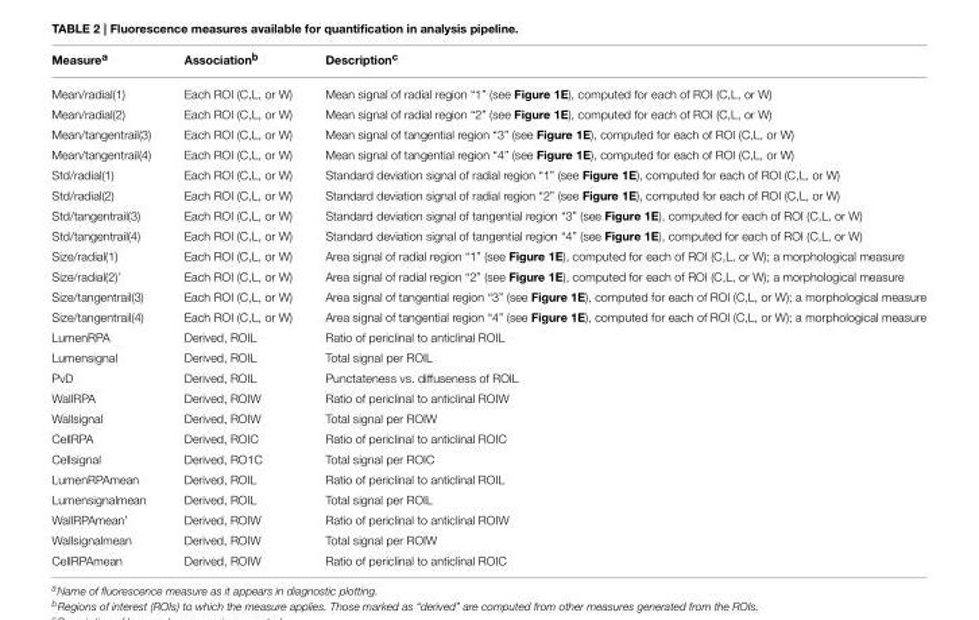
<table><thead><tr><td>Measure<sup>a</sup></td><td>Association<sup>b</sup></td><td>Description<sup>c</sup></td></tr></thead><tbody><tr><td>Mean/radial(1)</td><td>Each ROI (C,L, or W)</td><td>Mean signal of radial region “1” (see Figure 1E), computed for each of ROI (C,L, or W)</td></tr><tr><td>Mean/radial(2)</td><td>Each ROI (C,L, or W)</td><td>Mean signal of radial region “2” (see Figure 1E), computed for each of ROI (C,L, or W)</td></tr><tr><td>Mean/tangentrail(3)</td><td>Each ROI (C,L, or W)</td><td>Mean signal of tangential region “3” (see Figure 1E), computed for each of ROI (C,L, or W)</td></tr><tr><td>Mean/tangentrail(4)</td><td>Each ROI (C,L, or W)</td><td>Mean signal of tangential region “4” (see Figure 1E), computed for each of ROI (C,L, or W)</td></tr><tr><td>Std/radial(1)</td><td>Each ROI (C,L, or W)</td><td>Standard deviation signal of radial region “1” (see Figure 1E), computed for each of ROI (C,L, or W)</td></tr><tr><td>Std/radial(2)</td><td>Each ROI (C,L, or W)</td><td>Standard deviation signal of radial region “2” (see Figure 1E), computed for each of ROI (C,L, or W)</td></tr><tr><td>Std/tangentrail(3)</td><td>Each ROI (C,L, or W)</td><td>Standard deviation signal of tangential region “3” (see Figure 1E), computed for each of ROI (C,L, or W)</td></tr><tr><td>Std/tangentrail(4)</td><td>Each ROI (C,L, or W)</td><td>Standard deviation signal of tangential region “4” (see Figure 1E), computed for each of ROI (C,L, or W)</td></tr><tr><td>Size/radial(1)</td><td>Each ROI (C,L, or W)</td><td>Area signal of radial region “1” (see Figure 1E), computed for each of ROI (C,L, or W); a morphological measure</td></tr><tr><td>Size/radial(2)’</td><td>Each ROI (C,L, or W)</td><td>Area signal of radial region “2” (see Figure 1E), computed for each of ROI (C,L, or W); a morphological measure</td></tr><tr><td>Size/tangentrail(3)</td><td>Each ROI (C,L, or W)</td><td>Area signal of tangential region “3” (see Figure 1E), computed for each of ROI (C,L, or W); a morphological measure</td></tr><tr><td>Size/tangentrail(4)</td><td>Each ROI (C,L, or W)</td><td>Area signal of tangential region “4” (see Figure 1E), computed for each of ROI (C,L, or W); a morphological measure</td></tr><tr><td>LumenRPA</td><td>Derived, ROIL</td><td>Ratio of periclinal to anticlinal ROIL</td></tr><tr><td>Lumensignal</td><td>Derived, ROIL</td><td>Total signal per ROIL</td></tr><tr><td>PvD</td><td>Derived, ROIL</td><td>Punctateness vs. diffuseness of ROIL</td></tr><tr><td>WallRPA</td><td>Derived, ROIW</td><td>Ratio of periclinal to anticlinal ROIW</td></tr><tr><td>Wallsignal</td><td>Derived, ROIW</td><td>Total signal per ROIW</td></tr><tr><td>CellRPA</td><td>Derived, ROIC</td><td>Ratio of periclinal to anticlinal ROIC</td></tr><tr><td>Cellsignal</td><td>Derived, RO1C</td><td>Total signal per ROIC</td></tr><tr><td>LumenRPAmean</td><td>Derived, ROIL</td><td>Ratio of periclinal to anticlinal ROIL</td></tr><tr><td>Lumensignalmean</td><td>Derived, ROIL</td><td>Total signal per ROIL</td></tr><tr><td>WallRPAmean’</td><td>Derived, ROIW</td><td>Ratio of periclinal to anticlinal ROIW</td></tr><tr><td>Wallsignalmean</td><td>Derived, ROIW</td><td>Total signal per ROIW</td></tr><tr><td>CellRPAmean</td><td>Derived, ROIW</td><td>Ratio of periclinal to anticlinal ROIC</td></tr></tbody></table>